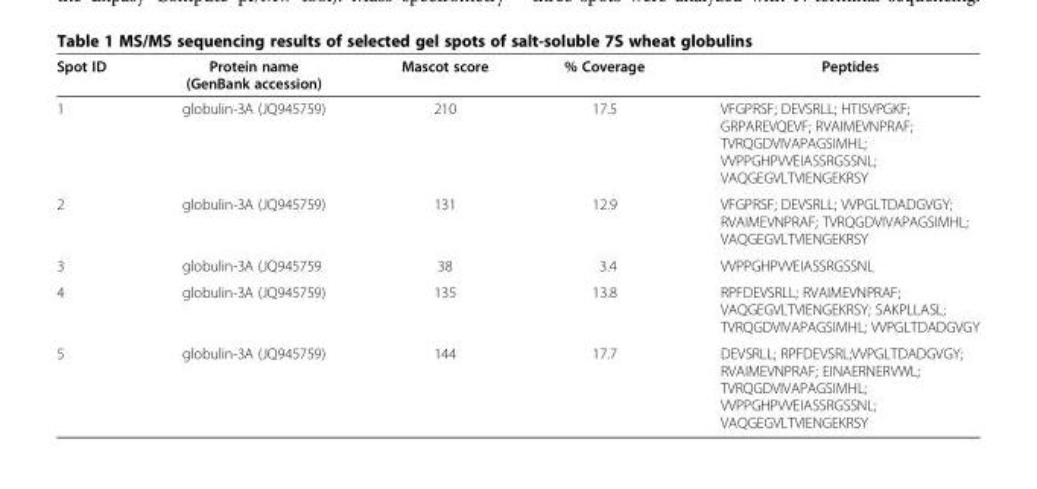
<table><thead><tr><td>Spot ID</td><td>Protein name (GenBank accession)</td><td>Mascot score</td><td>% Coverage</td><td>Peptides</td></tr></thead><tbody><tr><td>1</td><td>globulin-3A (JQ945759)</td><td>210</td><td>17.5</td><td>VFGPRSF; DEVSRLL; HTISVPGKF; GRPAREVQEVF; RVAIMEVNPRAF; TVRQGDVIVAPAGSIMHL; VVPPGHPVVEIASSRGSSNL; VAQGEGVLTVIENGEKRSY</td></tr><tr><td>2</td><td>globulin-3A (JQ945759)</td><td>131</td><td>12.9</td><td>VFGPRSF; DEVSRLL; VVPGLTDADGVGY; RVAIMEVNPRAF; TVRQGDVIVAPAGSIMHL; VAQGEGVLTVIENGEKRSY</td></tr><tr><td>3</td><td>globulin-3A (JQ945759</td><td>38</td><td>3.4</td><td>VVPPGHPVVEIASSRGSSNL</td></tr><tr><td>4</td><td>globulin-3A (JQ945759)</td><td>135</td><td>13.8</td><td>RPFDEVSRLL; RVAIMEVNPRAF; VAQGEGVLTVIENGEKRSY; SAKPLLASL; TVRQGDVIVAPAGSIMHL; VVPGLTDADGVGY</td></tr><tr><td>5</td><td>globulin-3A (JQ945759)</td><td>144</td><td>17.7</td><td>DEVSRLL; RPFDEVSRL;VVPGLTDADGVGY; RVAIMEVNPRAF; EINAERNERVWL; TVRQGDVIVAPAGSIMHL; VVPPGHPVVEIASSRGSSNL; VAQGEGVLTVIENGEKRSY</td></tr></tbody></table>